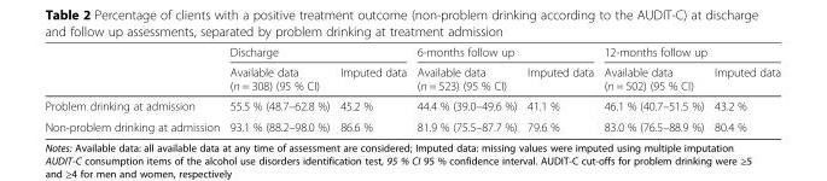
<table><thead><tr><td rowspan="2"></td><td colspan="2">Discharge</td><td colspan="2">6-months follow up</td><td colspan="2">12-months follow up</td></tr><tr><td>Available data (n = 308) (95 % CI)</td><td>Imputed data</td><td>Available data (n = 523) (95 % CI)</td><td>Imputed data</td><td>Available data (n = 502) (95 % CI)</td><td>Imputed data</td></tr></thead><tbody><tr><td>Problem drinking at admission</td><td>55.5 % (48.7–62.8 %)</td><td>45.2 %</td><td>44.4 % (39.0–49.6 %)</td><td>41.1 %</td><td>46.1 % (40.7–51.5 %)</td><td>43.2 %</td></tr><tr><td>Non-problem drinking at admission</td><td>93.1 % (88.2–98.0 %)</td><td>86.6 %</td><td>81.9 % (75.5–87.7 %)</td><td>79.6 %</td><td>83.0 % (76.5–88.9 %)</td><td>80.4 %</td></tr></tbody></table>